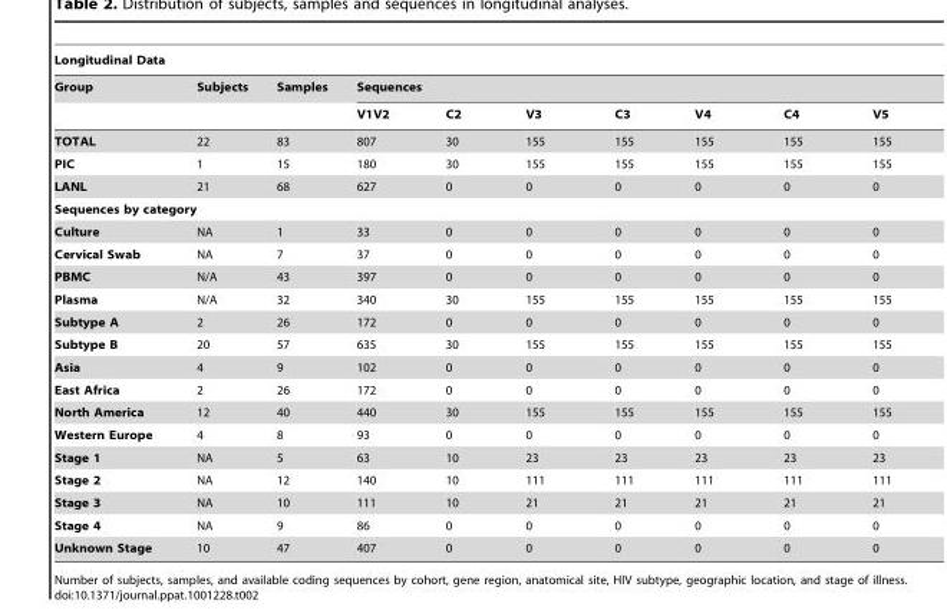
<table><thead><tr><td colspan="10">Longitudinal Data</td></tr><tr><td rowspan="2">Group</td><td rowspan="2">Subjects</td><td rowspan="2">Samples</td><td colspan="7">Sequences</td></tr><tr><td>V1V2</td><td>C2</td><td>V3</td><td>C3</td><td>V4</td><td>C4</td><td>V5</td></tr></thead><tbody><tr><td>TOTAL</td><td>22</td><td>83</td><td>807</td><td>30</td><td>155</td><td>155</td><td>155</td><td>155</td><td>155</td></tr><tr><td>PIC</td><td>1</td><td>15</td><td>180</td><td>30</td><td>155</td><td>155</td><td>155</td><td>155</td><td>155</td></tr><tr><td>LANL</td><td>21</td><td>68</td><td>627</td><td>0</td><td>0</td><td>0</td><td>0</td><td>0</td><td>0</td></tr><tr><td colspan="10">Sequences by category</td></tr><tr><td>Culture</td><td>NA</td><td>1</td><td>33</td><td>0</td><td>0</td><td>0</td><td>0</td><td>0</td><td>0</td></tr><tr><td>Cervical Swab</td><td>NA</td><td>7</td><td>37</td><td>0</td><td>0</td><td>0</td><td>0</td><td>0</td><td>0</td></tr><tr><td>PBMC</td><td>N/A</td><td>43</td><td>397</td><td>0</td><td>0</td><td>0</td><td>0</td><td>0</td><td>0</td></tr><tr><td>Plasma</td><td>N/A</td><td>32</td><td>340</td><td>30</td><td>155</td><td>155</td><td>155</td><td>155</td><td>155</td></tr><tr><td>Subtype A</td><td>2</td><td>26</td><td>172</td><td>0</td><td>0</td><td>0</td><td>0</td><td>0</td><td>0</td></tr><tr><td>Subtype B</td><td>20</td><td>57</td><td>635</td><td>30</td><td>155</td><td>155</td><td>155</td><td>155</td><td>155</td></tr><tr><td>Asia</td><td>4</td><td>9</td><td>102</td><td>0</td><td>0</td><td>0</td><td>0</td><td>0</td><td>0</td></tr><tr><td>East Africa</td><td>2</td><td>26</td><td>172</td><td>0</td><td>0</td><td>0</td><td>0</td><td>0</td><td>0</td></tr><tr><td>North America</td><td>12</td><td>40</td><td>440</td><td>30</td><td>155</td><td>155</td><td>155</td><td>155</td><td>155</td></tr><tr><td>Western Europe</td><td>4</td><td>8</td><td>93</td><td>0</td><td>0</td><td>0</td><td>0</td><td>0</td><td>0</td></tr><tr><td>Stage 1</td><td>NA</td><td>5</td><td>63</td><td>10</td><td>23</td><td>23</td><td>23</td><td>23</td><td>23</td></tr><tr><td>Stage 2</td><td>NA</td><td>12</td><td>140</td><td>10</td><td>111</td><td>111</td><td>111</td><td>111</td><td>111</td></tr><tr><td>Stage 3</td><td>NA</td><td>10</td><td>111</td><td>10</td><td>21</td><td>21</td><td>21</td><td>21</td><td>21</td></tr><tr><td>Stage 4</td><td>NA</td><td>9</td><td>86</td><td>0</td><td>0</td><td>0</td><td>0</td><td>0</td><td>0</td></tr><tr><td>Unknown Stage</td><td>10</td><td>47</td><td>407</td><td>0</td><td>0</td><td>0</td><td>0</td><td>0</td><td>0</td></tr></tbody></table>